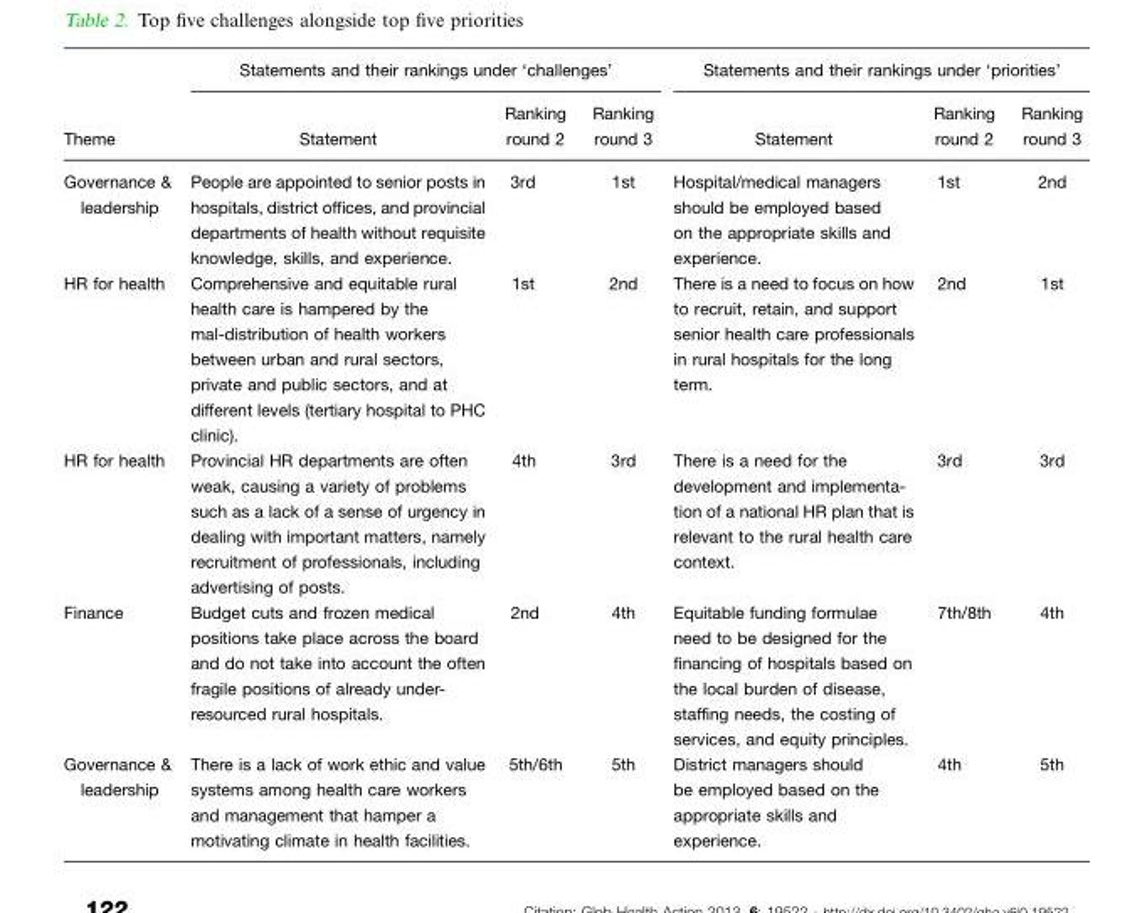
<table><thead><tr><td rowspan="2">Theme</td><td colspan="3">Statements and their rankings under ‘challenges’</td><td colspan="3">Statements and their rankings under ‘priorities’</td></tr><tr><td>Statement</td><td>Ranking round 2</td><td>Ranking round 3</td><td>Statement</td><td>Ranking round 2</td><td>Ranking round 3</td></tr></thead><tbody><tr><td>Governance &amp; leadership</td><td>People are appointed to senior posts in hospitals, district offices, and provincial departments of health without requisite knowledge, skills, and experience.</td><td>3rd</td><td>1st</td><td>Hospital/medical managers should be employed based on the appropriate skills and experience.</td><td>1st</td><td>2nd</td></tr><tr><td>HR for health</td><td>Comprehensive and equitable rural health care is hampered by the mal-distribution of health workers between urban and rural sectors, private and public sectors, and at different levels (tertiary hospital to PHC clinic).</td><td>1st</td><td>2nd</td><td>There is a need to focus on how to recruit, retain, and support senior health care professionals in rural hospitals for the long term.</td><td>2nd</td><td>1st</td></tr><tr><td>HR for health</td><td>Provincial HR departments are often weak, causing a variety of problems such as a lack of a sense of urgency in dealing with important matters, namely recruitment of professionals, including advertising of posts.</td><td>4th</td><td>3rd</td><td>There is a need for the development and implementa- tion of a national HR plan that is relevant to the rural health care context.</td><td>3rd</td><td>3rd</td></tr><tr><td>Finance</td><td>Budget cuts and frozen medical positions take place across the board and do not take into account the often fragile positions of already under- resourced rural hospitals.</td><td>2nd</td><td>4th</td><td>Equitable funding formulae need to be designed for the financing of hospitals based on the local burden of disease, staffing needs, the costing of services, and equity principles.</td><td>7th/8th</td><td>4th</td></tr><tr><td>Governance &amp; leadership</td><td>There is a lack of work ethic and value systems among health care workers and management that hamper a motivating climate in health facilities.</td><td>5th/6th</td><td>5th</td><td>District managers should be employed based on the appropriate skills and experience.</td><td>4th</td><td>5th</td></tr></tbody></table>